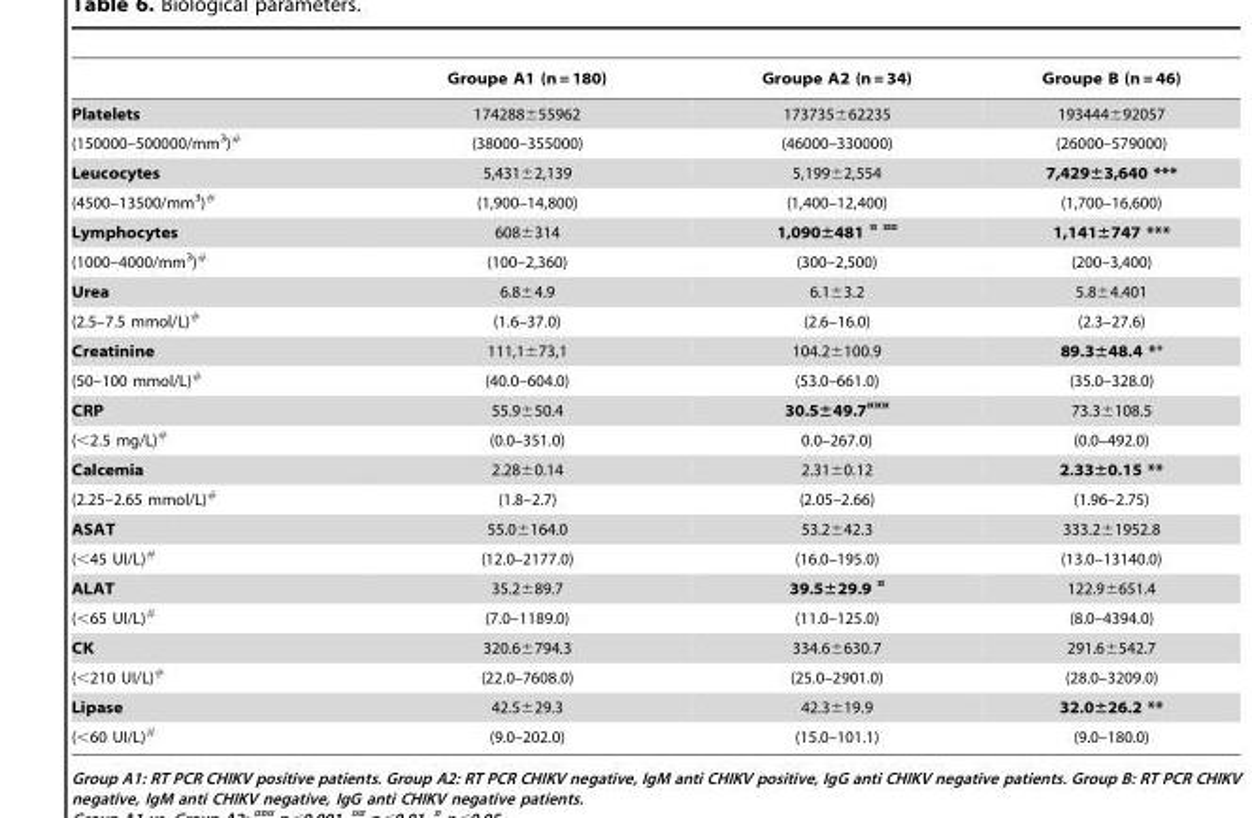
<table><thead><tr><td></td><td>Groupe A1 (n = 180)</td><td>Groupe A2 (n = 34)</td><td>Groupe B (n = 46)</td></tr></thead><tbody><tr><td>Platelets</td><td>174288±55962</td><td>173735±62235</td><td>193444±92057</td></tr><tr><td>(150000–500000/mm<sup>3</sup>)#</td><td>(38000–355000)</td><td>(46000–330000)</td><td>(26000–579000)</td></tr><tr><td>Leucocytes</td><td>5,431±2,139</td><td>5,199±2,554</td><td>7,429±3,640 ***</td></tr><tr><td>(4500–13500/mm<sup>3</sup>)#</td><td>(1,900–14,800)</td><td>(1,400–12,400)</td><td>(1,700–16,600)</td></tr><tr><td>Lymphocytes</td><td>608±314</td><td>1,090±481 <sup>¤ ¤¤</sup></td><td>1,141±747 ***</td></tr><tr><td>(1000–4000/mm<sup>3</sup>)#</td><td>(100–2,360)</td><td>(300–2,500)</td><td>(200–3,400)</td></tr><tr><td>Urea</td><td>6.8±4.9</td><td>6.1±3.2</td><td>5.8±4.401</td></tr><tr><td>(2.5–7.5 mmol/L)#</td><td>(1.6–37.0)</td><td>(2.6–16.0)</td><td>(2.3–27.6)</td></tr><tr><td>Creatinine</td><td>111,1±73,1</td><td>104.2±100.9</td><td>89.3±48.4 **</td></tr><tr><td>(50–100 mmol/L)#</td><td>(40.0–604.0)</td><td>(53.0–661.0)</td><td>(35.0–328.0)</td></tr><tr><td>CRP</td><td>55.9±50.4</td><td>30.5±49.7<sup>¤¤¤</sup></td><td>73.3±108.5</td></tr><tr><td>(&lt;2.5 mg/L)#</td><td>(0.0–351.0)</td><td>0.0–267.0)</td><td>(0.0–492.0)</td></tr><tr><td>Calcemia</td><td>2.28±0.14</td><td>2.31±0.12</td><td>2.33±0.15 **</td></tr><tr><td>(2.25–2.65 mmol/L)#</td><td>(1.8–2.7)</td><td>(2.05–2.66)</td><td>(1.96–2.75)</td></tr><tr><td>ASAT</td><td>55.0±164.0</td><td>53.2±42.3</td><td>333.2±1952.8</td></tr><tr><td>(&lt;45 UI/L)#</td><td>(12.0–2177.0)</td><td>(16.0–195.0)</td><td>(13.0–13140.0)</td></tr><tr><td>ALAT</td><td>35.2±89.7</td><td>39.5±29.9 <sup>¤</sup></td><td>122.9±651.4</td></tr><tr><td>(&lt;65 UI/L)#</td><td>(7.0–1189.0)</td><td>(11.0–125.0)</td><td>(8.0–4394.0)</td></tr><tr><td>CK</td><td>320.6±794.3</td><td>334.6±630.7</td><td>291.6±542.7</td></tr><tr><td>(&lt;210 UI/L)#</td><td>(22.0–7608.0)</td><td>(25.0–2901.0)</td><td>(28.0–3209.0)</td></tr><tr><td>Lipase</td><td>42.5±29.3</td><td>42.3±19.9</td><td>32.0±26.2 **</td></tr><tr><td>(&lt;60 UI/L)#</td><td>(9.0–202.0)</td><td>(15.0–101.1)</td><td>(9.0–180.0)</td></tr></tbody></table>